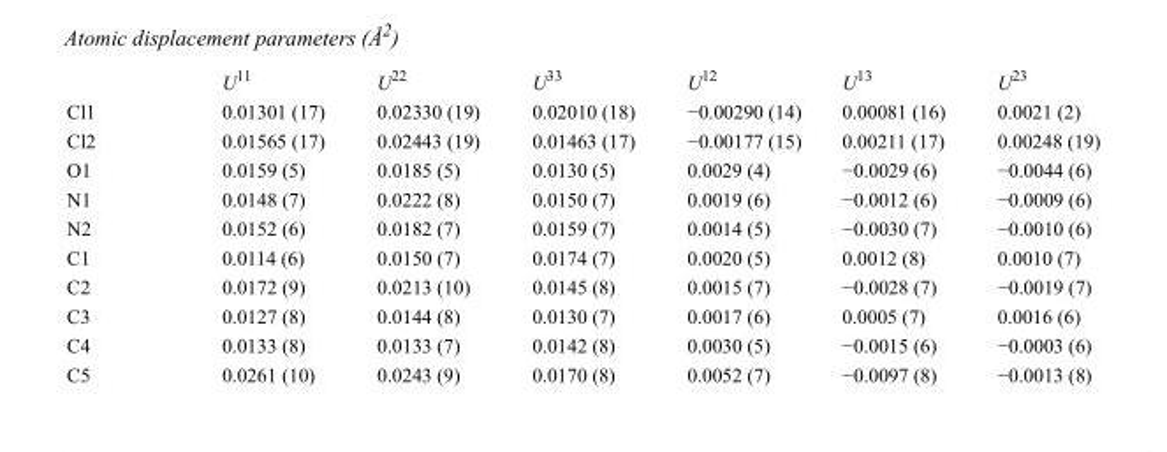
<table><thead><tr><td></td><td>U<sup>11</sup></td><td>U<sup>22</sup></td><td>U<sup>33</sup></td><td>U<sup>12</sup></td><td>U<sup>13</sup></td><td>U<sup>23</sup></td></tr></thead><tbody><tr><td>Cl1</td><td>0.01301 (17)</td><td>0.02330 (19)</td><td>0.02010 (18)</td><td>−0.00290 (14)</td><td>0.00081 (16)</td><td>0.0021 (2)</td></tr><tr><td>Cl2</td><td>0.01565 (17)</td><td>0.02443 (19)</td><td>0.01463 (17)</td><td>−0.00177 (15)</td><td>0.00211 (17)</td><td>0.00248 (19)</td></tr><tr><td>O1</td><td>0.0159 (5)</td><td>0.0185 (5)</td><td>0.0130 (5)</td><td>0.0029 (4)</td><td>−0.0029 (6)</td><td>−0.0044 (6)</td></tr><tr><td>N1</td><td>0.0148 (7)</td><td>0.0222 (8)</td><td>0.0150 (7)</td><td>0.0019 (6)</td><td>−0.0012 (6)</td><td>−0.0009 (6)</td></tr><tr><td>N2</td><td>0.0152 (6)</td><td>0.0182 (7)</td><td>0.0159 (7)</td><td>0.0014 (5)</td><td>−0.0030 (7)</td><td>−0.0010 (6)</td></tr><tr><td>C1</td><td>0.0114 (6)</td><td>0.0150 (7)</td><td>0.0174 (7)</td><td>0.0020 (5)</td><td>0.0012 (8)</td><td>0.0010 (7)</td></tr><tr><td>C2</td><td>0.0172 (9)</td><td>0.0213 (10)</td><td>0.0145 (8)</td><td>0.0015 (7)</td><td>−0.0028 (7)</td><td>−0.0019 (7)</td></tr><tr><td>C3</td><td>0.0127 (8)</td><td>0.0144 (8)</td><td>0.0130 (7)</td><td>0.0017 (6)</td><td>0.0005 (7)</td><td>0.0016 (6)</td></tr><tr><td>C4</td><td>0.0133 (8)</td><td>0.0133 (7)</td><td>0.0142 (8)</td><td>0.0030 (5)</td><td>−0.0015 (6)</td><td>−0.0003 (6)</td></tr><tr><td>C5</td><td>0.0261 (10)</td><td>0.0243 (9)</td><td>0.0170 (8)</td><td>0.0052 (7)</td><td>−0.0097 (8)</td><td>−0.0013 (8)</td></tr></tbody></table>